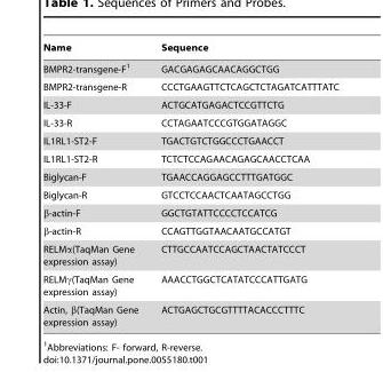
<table><thead><tr><td>Name</td><td>Sequence</td></tr></thead><tbody><tr><td>BMPR2-transgene-F<sup>1</sup></td><td>GACGAGAGCAACAGGCTGG</td></tr><tr><td>BMPR2-transgene-R</td><td>CCCTGAAGTTCTCAGCTCTAGATCATTTATC</td></tr><tr><td>IL-33-F</td><td>ACTGCATGAGACTCCGTTCTG</td></tr><tr><td>IL-33-R</td><td>CCTAGAATCCCGTGGATAGGC</td></tr><tr><td>IL1RL1-ST2-F</td><td>TGACTGTCTGGCCCTGAACCT</td></tr><tr><td>IL1RL1-ST2-R</td><td>TCTCTCCAGAACAGAGCAACCTCAA</td></tr><tr><td>Biglycan-F</td><td>TGAACCAGGAGCCTTTGATGGC</td></tr><tr><td>Biglycan-R</td><td>GTCCTCCAACTCAATAGCCTGG</td></tr><tr><td>β-actin-F</td><td>GGCTGTATTCCCCTCCATCG</td></tr><tr><td>β-actin-R</td><td>CCAGTTGGTAACAATGCCATGT</td></tr><tr><td>RELMα(TaqMan Gene expression assay)</td><td>CTTGCCAATCCAGCTAACTATCCCT</td></tr><tr><td>RELMγ(TaqMan Gene expression assay)</td><td>AAACCTGGCTCATATCCCATTGATG</td></tr><tr><td>Actin, β(TaqMan Gene expression assay)</td><td>ACTGAGCTGCGTTTTACACCCTTTC</td></tr></tbody></table>